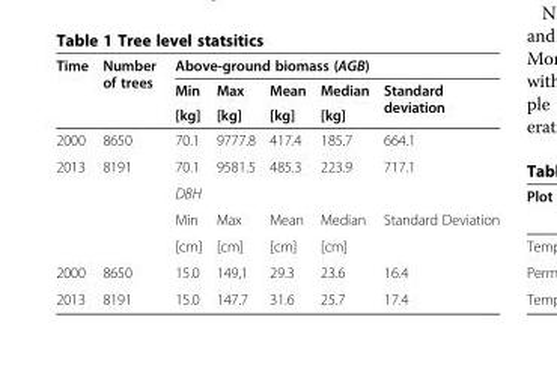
<table><thead><tr><td rowspan="3">Time</td><td rowspan="3">Number of trees</td><td colspan="5">Above-ground biomass (AGB)</td></tr><tr><td rowspan="2">Min [kg]</td><td rowspan="2">Max [kg]</td><td rowspan="2">Mean [kg]</td><td rowspan="2">Median [kg]</td><td rowspan="2">Standard deviation</td></tr><tr></tr></thead><tbody><tr><td>2000</td><td>8650</td><td>70.1</td><td>9777.8</td><td>417.4</td><td>185.7</td><td>664.1</td></tr><tr><td rowspan="4">2013</td><td>8191</td><td>70.1</td><td>9581.5</td><td>485.3</td><td>223.9</td><td>717.1</td></tr><tr><td rowspan="3"></td><td colspan="5">DBH</td></tr><tr><td>Min</td><td>Max</td><td>Mean</td><td>Median</td><td rowspan="2">Standard Deviation</td></tr><tr><td>[cm]</td><td>[cm]</td><td>[cm]</td><td>[cm]</td></tr><tr><td>2000</td><td>8650</td><td>15.0</td><td>149,1</td><td>29.3</td><td>23.6</td><td>16.4</td></tr><tr><td>2013</td><td>8191</td><td>15.0</td><td>147.7</td><td>31.6</td><td>25.7</td><td>17.4</td></tr></tbody></table>